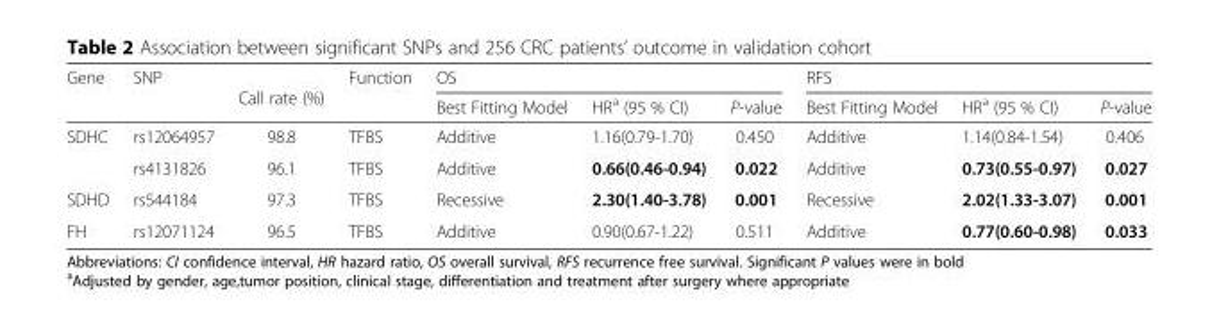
<table><thead><tr><td rowspan="2">Gene</td><td rowspan="2">SNP</td><td rowspan="2">Call rate (%)</td><td rowspan="2">Function</td><td colspan="3">OS</td><td colspan="3">RFS</td></tr><tr><td>Best Fitting Model</td><td>HR<sup>a</sup> (95 % CI)</td><td>P-value</td><td>Best Fitting Model</td><td>HR<sup>a</sup> (95 % CI)</td><td>P-value</td></tr></thead><tbody><tr><td rowspan="2">SDHC</td><td>rs12064957</td><td>98.8</td><td>TFBS</td><td>Additive</td><td>1.16(0.79-1.70)</td><td>0.450</td><td>Additive</td><td>1.14(0.84-1.54)</td><td>0.406</td></tr><tr><td>rs4131826</td><td>96.1</td><td>TFBS</td><td>Additive</td><td>0.66(0.46-0.94)</td><td>0.022</td><td>Additive</td><td>0.73(0.55-0.97)</td><td>0.027</td></tr><tr><td>SDHD</td><td>rs544184</td><td>97.3</td><td>TFBS</td><td>Recessive</td><td>2.30(1.40-3.78)</td><td>0.001</td><td>Recessive</td><td>2.02(1.33-3.07)</td><td>0.001</td></tr><tr><td>FH</td><td>rs12071124</td><td>96.5</td><td>TFBS</td><td>Additive</td><td>0.90(0.67-1.22)</td><td>0.511</td><td>Additive</td><td>0.77(0.60-0.98)</td><td>0.033</td></tr></tbody></table>